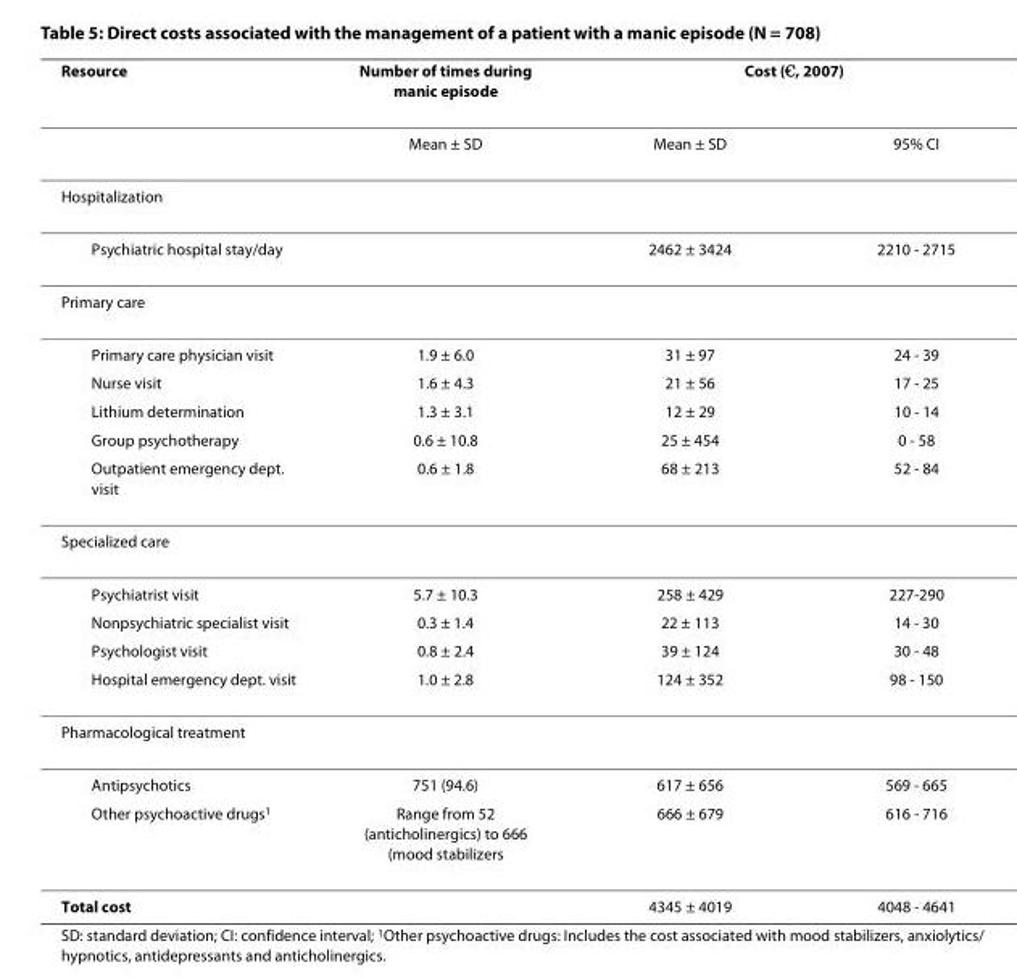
<table><thead><tr><td rowspan="2">Resource</td><td rowspan="2">Number of times during manic episode Mean ± SD</td><td colspan="2">Cost (€, 2007)</td></tr><tr><td>Mean ± SD</td><td>95% CI</td></tr></thead><tbody><tr><td colspan="4">Hospitalization</td></tr><tr><td>Psychiatric hospital stay/day</td><td></td><td>2462 ± 3424</td><td>2210 - 2715</td></tr><tr><td colspan="4">Primary care</td></tr><tr><td>Primary care physician visit</td><td>1.9 ± 6.0</td><td>31 ± 97</td><td>24 - 39</td></tr><tr><td>Nurse visit</td><td>1.6 ± 4.3</td><td>21 ± 56</td><td>17 - 25</td></tr><tr><td>Lithium determination</td><td>1.3 ± 3.1</td><td>12 ± 29</td><td>10 - 14</td></tr><tr><td>Group psychotherapy</td><td>0.6 ± 10.8</td><td>25 ± 454</td><td>0 - 58</td></tr><tr><td>Outpatient emergency dept. visit</td><td>0.6 ± 1.8</td><td>68 ± 213</td><td>52 - 84</td></tr><tr><td colspan="4">Specialized care</td></tr><tr><td>Psychiatrist visit</td><td>5.7 ± 10.3</td><td>258 ± 429</td><td>227-290</td></tr><tr><td>Nonpsychiatric specialist visit</td><td>0.3 ± 1.4</td><td>22 ± 113</td><td>14 - 30</td></tr><tr><td>Psychologist visit</td><td>0.8 ± 2.4</td><td>39 ± 124</td><td>30 - 48</td></tr><tr><td>Hospital emergency dept. visit</td><td>1.0 ± 2.8</td><td>124 ± 352</td><td>98 - 150</td></tr><tr><td colspan="4">Pharmacological treatment</td></tr><tr><td>Antipsychotics</td><td>751 (94.6)</td><td>617 ± 656</td><td>569 - 665</td></tr><tr><td>Other psychoactive drugs<sup>1</sup></td><td>Range from 52 (anticholinergics) to 666 (mood stabilizers</td><td>666 ± 679</td><td>616 - 716</td></tr><tr><td>Total cost</td><td></td><td>4345 ± 4019</td><td>4048 - 4641</td></tr></tbody></table>